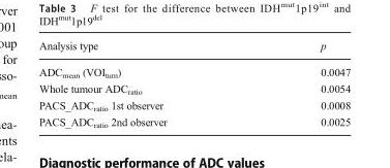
<table><thead><tr><td>Analysis type</td><td>p</td></tr></thead><tbody><tr><td>ADC<sub>mean</sub> (VOI<sub>tum</sub>)</td><td>0.0047</td></tr><tr><td>Whole tumour ADC<sub>ratio</sub></td><td>0.0054</td></tr><tr><td>PACS_ADC<sub>ratio</sub> 1st observer</td><td>0.0008</td></tr><tr><td>PACS_ADC<sub>ratio</sub> 2nd observer</td><td>0.0025</td></tr></tbody></table>